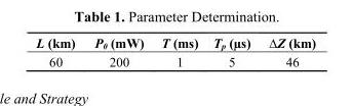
<table><thead><tr><td>L (km)</td><td>P<sub>0</sub> (mW)</td><td>T (ms)</td><td>T<sub>p</sub> (µs)</td><td>∆Z (km)</td></tr></thead><tbody><tr><td>60</td><td>200</td><td>1</td><td>5</td><td>46</td></tr></tbody></table>